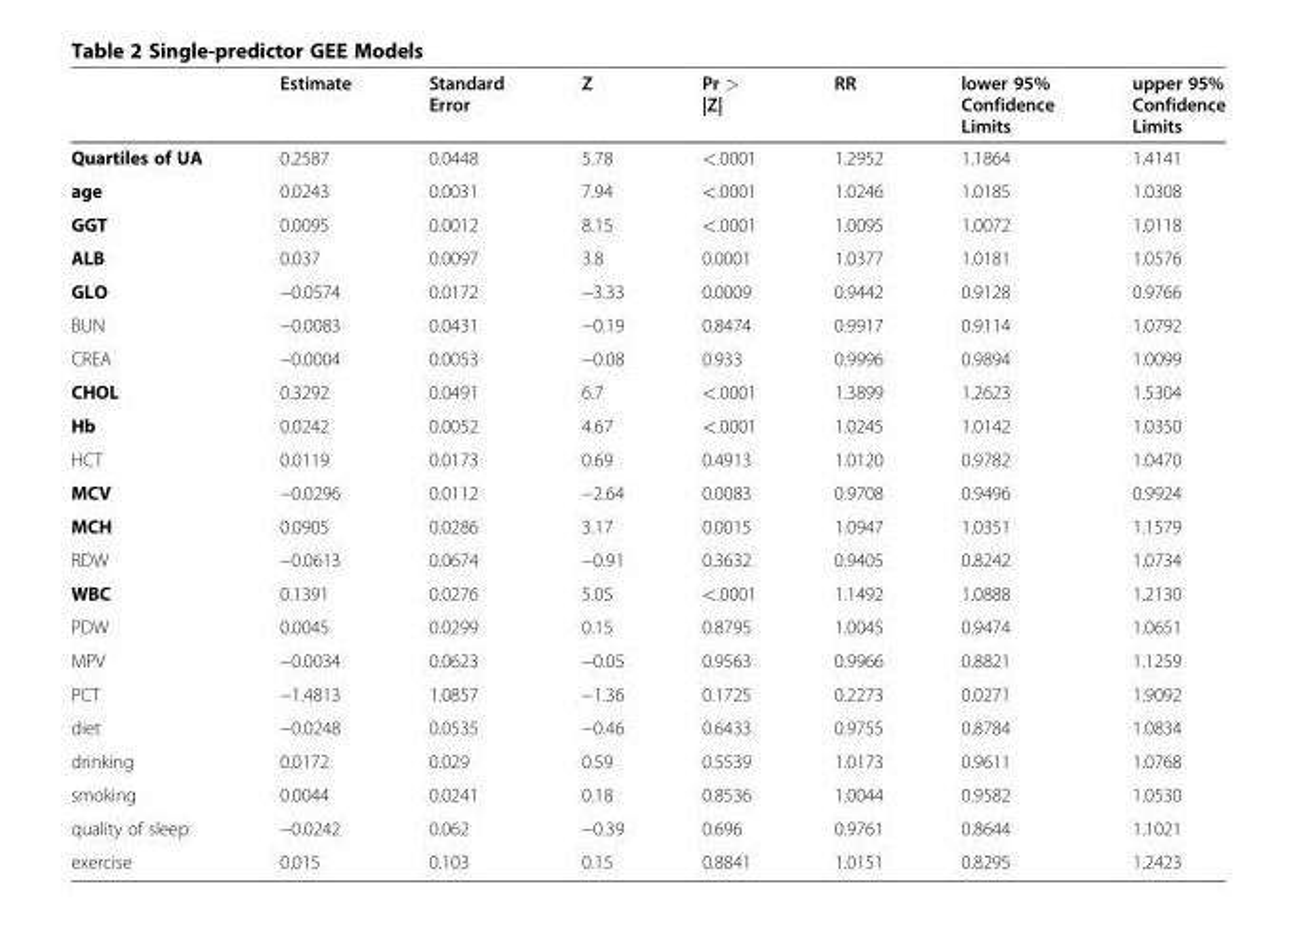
<table><thead><tr><td></td><td>Estimate</td><td>Standard Error</td><td>Z</td><td>Pr &gt; |Z|</td><td>RR</td><td>lower 95% Confidence Limits</td><td>upper 95% Confidence Limits</td></tr></thead><tbody><tr><td>Quartiles of UA</td><td>0.2587</td><td>0.0448</td><td>5.78</td><td>&lt;.0001</td><td>1.2952</td><td>1.1864</td><td>1.4141</td></tr><tr><td>age</td><td>0.0243</td><td>0.0031</td><td>7.94</td><td>&lt;.0001</td><td>1.0246</td><td>1.0185</td><td>1.0308</td></tr><tr><td>GGT</td><td>0.0095</td><td>0.0012</td><td>8.15</td><td>&lt;.0001</td><td>1.0095</td><td>1.0072</td><td>1.0118</td></tr><tr><td>ALB</td><td>0.037</td><td>0.0097</td><td>3.8</td><td>0.0001</td><td>1.0377</td><td>1.0181</td><td>1.0576</td></tr><tr><td>GLO</td><td>−0.0574</td><td>0.0172</td><td>−3.33</td><td>0.0009</td><td>0.9442</td><td>0.9128</td><td>0.9766</td></tr><tr><td>BUN</td><td>−0.0083</td><td>0.0431</td><td>−0.19</td><td>0.8474</td><td>0.9917</td><td>0.9114</td><td>1.0792</td></tr><tr><td>CREA</td><td>−0.0004</td><td>0.0053</td><td>−0.08</td><td>0.933</td><td>0.9996</td><td>0.9894</td><td>1.0099</td></tr><tr><td>CHOL</td><td>0.3292</td><td>0.0491</td><td>6.7</td><td>&lt;.0001</td><td>1.3899</td><td>1.2623</td><td>1.5304</td></tr><tr><td>Hb</td><td>0.0242</td><td>0.0052</td><td>4.67</td><td>&lt;.0001</td><td>1.0245</td><td>1.0142</td><td>1.0350</td></tr><tr><td>HCT</td><td>0.0119</td><td>0.0173</td><td>0.69</td><td>0.4913</td><td>1.0120</td><td>0.9782</td><td>1.0470</td></tr><tr><td>MCV</td><td>−0.0296</td><td>0.0112</td><td>−2.64</td><td>0.0083</td><td>0.9708</td><td>0.9496</td><td>0.9924</td></tr><tr><td>MCH</td><td>0.0905</td><td>0.0286</td><td>3.17</td><td>0.0015</td><td>1.0947</td><td>1.0351</td><td>1.1579</td></tr><tr><td>RDW</td><td>−0.0613</td><td>0.0674</td><td>−0.91</td><td>0.3632</td><td>0.9405</td><td>0.8242</td><td>1.0734</td></tr><tr><td>WBC</td><td>0.1391</td><td>0.0276</td><td>5.05</td><td>&lt;.0001</td><td>1.1492</td><td>1.0888</td><td>1.2130</td></tr><tr><td>PDW</td><td>0.0045</td><td>0.0299</td><td>0.15</td><td>0.8795</td><td>1.0045</td><td>0.9474</td><td>1.0651</td></tr><tr><td>MPV</td><td>−0.0034</td><td>0.0623</td><td>−0.05</td><td>0.9563</td><td>0.9966</td><td>0.8821</td><td>1.1259</td></tr><tr><td>PCT</td><td>−1.4813</td><td>1.0857</td><td>−1.36</td><td>0.1725</td><td>0.2273</td><td>0.0271</td><td>1.9092</td></tr><tr><td>diet</td><td>−0.0248</td><td>0.0535</td><td>−0.46</td><td>0.6433</td><td>0.9755</td><td>0.8784</td><td>1.0834</td></tr><tr><td>drinking</td><td>0.0172</td><td>0.029</td><td>0.59</td><td>0.5539</td><td>1.0173</td><td>0.9611</td><td>1.0768</td></tr><tr><td>smoking</td><td>0.0044</td><td>0.0241</td><td>0.18</td><td>0.8536</td><td>1.0044</td><td>0.9582</td><td>1.0530</td></tr><tr><td>quality of sleep</td><td>−0.0242</td><td>0.062</td><td>−0.39</td><td>0.696</td><td>0.9761</td><td>0.8644</td><td>1.1021</td></tr><tr><td>exercise</td><td>0.015</td><td>0.103</td><td>0.15</td><td>0.8841</td><td>1.0151</td><td>0.8295</td><td>1.2423</td></tr></tbody></table>